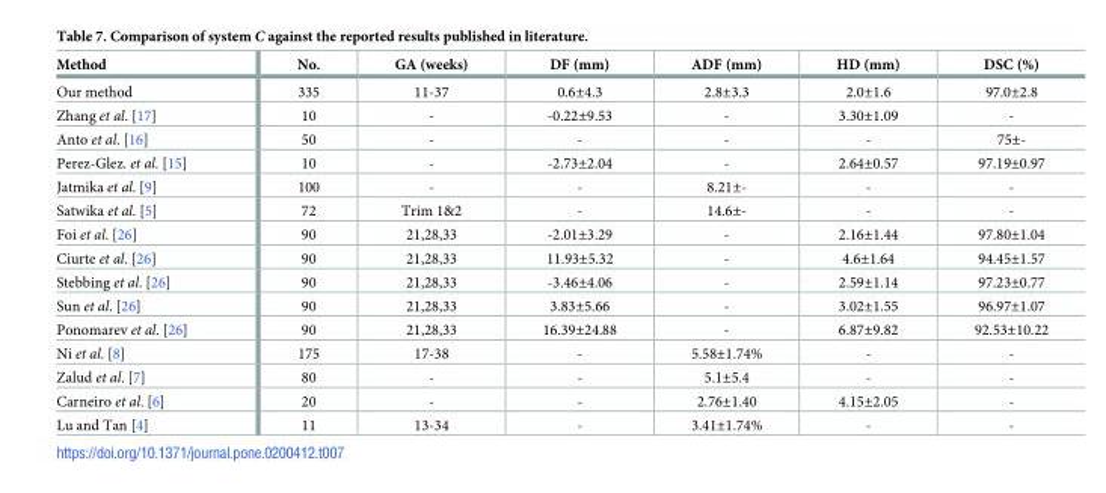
<table><thead><tr><td>Method</td><td>No.</td><td>GA (weeks)</td><td>DF (mm)</td><td>ADF (mm)</td><td>HD (mm)</td><td>DSC (%)</td></tr></thead><tbody><tr><td>Our method</td><td>335</td><td>11-37</td><td>0.6±4.3</td><td>2.8±3.3</td><td>2.0±1.6</td><td>97.0±2.8</td></tr><tr><td>Zhang et al. [17]</td><td>10</td><td>-</td><td>-0.22±9.53</td><td>-</td><td>3.30±1.09</td><td>-</td></tr><tr><td>Anto et al. [16]</td><td>50</td><td>-</td><td>-</td><td>-</td><td>-</td><td>75±-</td></tr><tr><td>Perez-Glez. et al. [15]</td><td>10</td><td>-</td><td>-2.73±2.04</td><td>-</td><td>2.64±0.57</td><td>97.19±0.97</td></tr><tr><td>Jatmika et al. [9]</td><td>100</td><td>-</td><td>-</td><td>8.21±-</td><td>-</td><td>-</td></tr><tr><td>Satwika et al. [5]</td><td>72</td><td>Trim 1&amp;2</td><td>-</td><td>14.6±-</td><td>-</td><td>-</td></tr><tr><td>Foi et al. [26]</td><td>90</td><td>21,28,33</td><td>-2.01±3.29</td><td>-</td><td>2.16±1.44</td><td>97.80±1.04</td></tr><tr><td>Ciurte et al. [26]</td><td>90</td><td>21,28,33</td><td>11.93±5.32</td><td>-</td><td>4.6±1.64</td><td>94.45±1.57</td></tr><tr><td>Stebbing et al. [26]</td><td>90</td><td>21,28,33</td><td>-3.46±4.06</td><td>-</td><td>2.59±1.14</td><td>97.23±0.77</td></tr><tr><td>Sun et al. [26]</td><td>90</td><td>21,28,33</td><td>3.83±5.66</td><td>-</td><td>3.02±1.55</td><td>96.97±1.07</td></tr><tr><td>Ponomarev et al. [26]</td><td>90</td><td>21,28,33</td><td>16.39±24.88</td><td>-</td><td>6.87±9.82</td><td>92.53±10.22</td></tr><tr><td>Ni et al. [8]</td><td>175</td><td>17-38</td><td>-</td><td>5.58±1.74%</td><td>-</td><td>-</td></tr><tr><td>Zalud et al. [7]</td><td>80</td><td>-</td><td>-</td><td>5.1±5.4</td><td>-</td><td>-</td></tr><tr><td>Carneiro et al. [6]</td><td>20</td><td>-</td><td>-</td><td>2.76±1.40</td><td>4.15±2.05</td><td>-</td></tr><tr><td>Lu and Tan [4]</td><td>11</td><td>13-34</td><td>-</td><td>3.41±1.74%</td><td>-</td><td>-</td></tr></tbody></table>